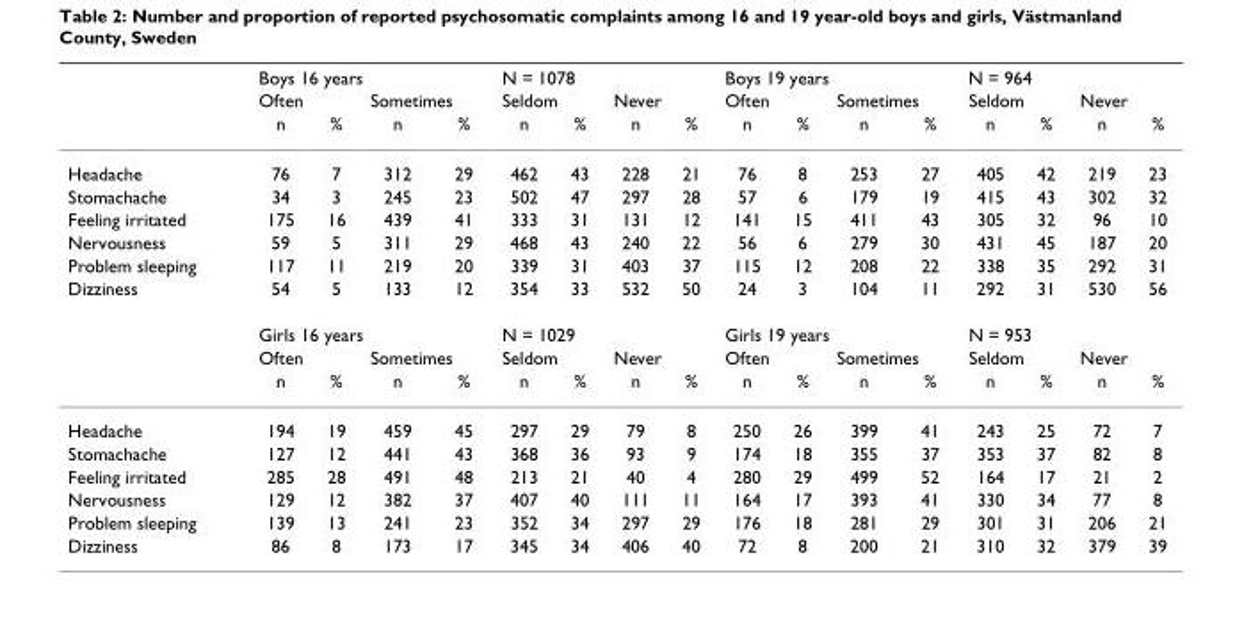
<table><thead><tr><td rowspan="3"></td><td colspan="4">Boys 16 years</td><td colspan="4">N = 1078</td><td colspan="4">Boys 19 years</td><td colspan="4">N = 964</td></tr><tr><td colspan="2">Often</td><td colspan="2">Sometimes</td><td colspan="2">Seldom</td><td colspan="2">Never</td><td colspan="2">Often</td><td colspan="2">Sometimes</td><td colspan="2">Seldom</td><td colspan="2">Never</td></tr><tr><td>n</td><td>%</td><td>n</td><td>%</td><td>n</td><td>%</td><td>n</td><td>%</td><td>n</td><td>%</td><td>n</td><td>%</td><td>n</td><td>%</td><td>n</td><td>%</td></tr></thead><tbody><tr><td>Headache</td><td>76</td><td>7</td><td>312</td><td>29</td><td>462</td><td>43</td><td>228</td><td>21</td><td>76</td><td>8</td><td>253</td><td>27</td><td>405</td><td>42</td><td>219</td><td>23</td></tr><tr><td>Stomachache</td><td>34</td><td>3</td><td>245</td><td>23</td><td>502</td><td>47</td><td>297</td><td>28</td><td>57</td><td>6</td><td>179</td><td>19</td><td>415</td><td>43</td><td>302</td><td>32</td></tr><tr><td>Feeling irritated</td><td>175</td><td>16</td><td>439</td><td>41</td><td>333</td><td>31</td><td>131</td><td>12</td><td>141</td><td>15</td><td>411</td><td>43</td><td>305</td><td>32</td><td>96</td><td>10</td></tr><tr><td>Nervousness</td><td>59</td><td>5</td><td>311</td><td>29</td><td>468</td><td>43</td><td>240</td><td>22</td><td>56</td><td>6</td><td>279</td><td>30</td><td>431</td><td>45</td><td>187</td><td>20</td></tr><tr><td>Problem sleeping</td><td>117</td><td>11</td><td>219</td><td>20</td><td>339</td><td>31</td><td>403</td><td>37</td><td>115</td><td>12</td><td>208</td><td>22</td><td>338</td><td>35</td><td>292</td><td>31</td></tr><tr><td rowspan="4">Dizziness</td><td>54</td><td>5</td><td>133</td><td>12</td><td>354</td><td>33</td><td>532</td><td>50</td><td>24</td><td>3</td><td>104</td><td>11</td><td>292</td><td>31</td><td>530</td><td>56</td></tr><tr><td colspan="4">Girls 16 years</td><td colspan="4">N = 1029</td><td colspan="4">Girls 19 years</td><td colspan="4">N = 953</td></tr><tr><td colspan="2">Often</td><td colspan="2">Sometimes</td><td colspan="2">Seldom</td><td colspan="2">Never</td><td colspan="2">Often</td><td colspan="2">Sometimes</td><td colspan="2">Seldom</td><td colspan="2">Never</td></tr><tr><td>n</td><td>%</td><td>n</td><td>%</td><td>n</td><td>%</td><td>n</td><td>%</td><td>n</td><td>%</td><td>n</td><td>%</td><td>n</td><td>%</td><td>n</td><td>%</td></tr><tr><td>Headache</td><td>194</td><td>19</td><td>459</td><td>45</td><td>297</td><td>29</td><td>79</td><td>8</td><td>250</td><td>26</td><td>399</td><td>41</td><td>243</td><td>25</td><td>72</td><td>7</td></tr><tr><td>Stomachache</td><td>127</td><td>12</td><td>441</td><td>43</td><td>368</td><td>36</td><td>93</td><td>9</td><td>174</td><td>18</td><td>355</td><td>37</td><td>353</td><td>37</td><td>82</td><td>8</td></tr><tr><td>Feeling irritated</td><td>285</td><td>28</td><td>491</td><td>48</td><td>213</td><td>21</td><td>40</td><td>4</td><td>280</td><td>29</td><td>499</td><td>52</td><td>164</td><td>17</td><td>21</td><td>2</td></tr><tr><td>Nervousness</td><td>129</td><td>12</td><td>382</td><td>37</td><td>407</td><td>40</td><td>111</td><td>11</td><td>164</td><td>17</td><td>393</td><td>41</td><td>330</td><td>34</td><td>77</td><td>8</td></tr><tr><td>Problem sleeping</td><td>139</td><td>13</td><td>241</td><td>23</td><td>352</td><td>34</td><td>297</td><td>29</td><td>176</td><td>18</td><td>281</td><td>29</td><td>301</td><td>31</td><td>206</td><td>21</td></tr><tr><td>Dizziness</td><td>86</td><td>8</td><td>173</td><td>17</td><td>345</td><td>34</td><td>406</td><td>40</td><td>72</td><td>8</td><td>200</td><td>21</td><td>310</td><td>32</td><td>379</td><td>39</td></tr></tbody></table>